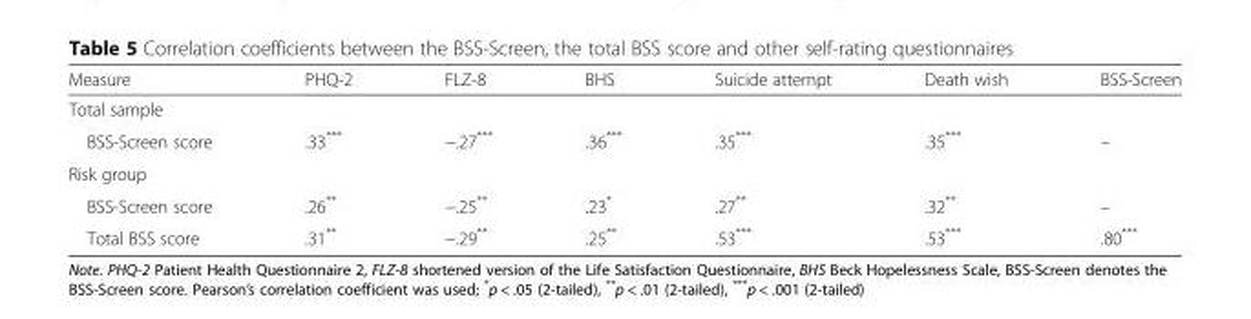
<table><thead><tr><td>Measure</td><td>PHQ-2</td><td>FLZ-8</td><td>BHS</td><td>Suicide attempt</td><td>Death wish</td><td>BSS-Screen</td></tr></thead><tbody><tr><td colspan="7">Total sample</td></tr><tr><td>BSS-Screen score</td><td>.33***</td><td>−.27***</td><td>.36***</td><td>.35***</td><td>.35***</td><td>–</td></tr><tr><td colspan="7">Risk group</td></tr><tr><td>BSS-Screen score</td><td>.26**</td><td>−.25**</td><td>.23*</td><td>.27**</td><td>.32**</td><td>–</td></tr><tr><td>Total BSS score</td><td>.31**</td><td>−.29**</td><td>.25**</td><td>.53***</td><td>.53***</td><td>.80***</td></tr></tbody></table>